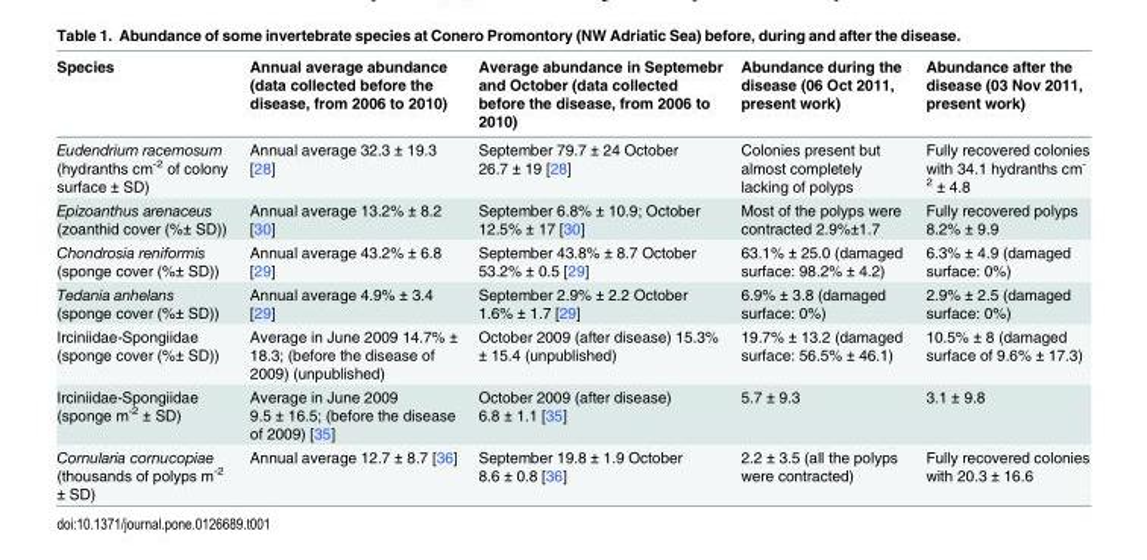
<table><thead><tr><td>Species</td><td>Annual average abundance (data collected before the disease, from 2006 to 2010)</td><td>Average abundance in Septemebr and October (data collected before the disease, from 2006 to 2010)</td><td>Abundance during the disease (06 Oct 2011, present work)</td><td>Abundance after the disease (03 Nov 2011, present work)</td></tr></thead><tbody><tr><td>Eudendrium racemosum (hydranths cm<sup>-2</sup> of colony surface ± SD)</td><td>Annual average 32.3 ± 19.3 [28]</td><td>September 79.7 ± 24 October 26.7 ± 19 [28]</td><td>Colonies present but almost completely lacking of polyps</td><td>Fully recovered colonies with 34.1 hydranths cm<sup>- 2</sup> ± 4.8</td></tr><tr><td>Epizoanthus arenaceus (zoanthid cover (%± SD))</td><td>Annual average 13.2% ± 8.2 [30]</td><td>September 6.8% ± 10.9; October 12.5% ± 17 [30]</td><td>Most of the polyps were contracted 2.9%±1.7</td><td>Fully recovered polyps 8.2% ± 9.9</td></tr><tr><td>Chondrosia reniformis (sponge cover (%± SD))</td><td>Annual average 43.2% ± 6.8 [29]</td><td>September 43.8% ± 8.7 October 53.2% ± 0.5 [29]</td><td>63.1% ± 25.0 (damaged surface: 98.2% ± 4.2)</td><td>6.3% ± 4.9 (damaged surface: 0%)</td></tr><tr><td>Tedania anhelans (sponge cover (%± SD))</td><td>Annual average 4.9% ± 3.4 [29]</td><td>September 2.9% ± 2.2 October 1.6% ± 1.7 [29]</td><td>6.9% ± 3.8 (damaged surface: 0%)</td><td>2.9% ± 2.5 (damaged surface: 0%)</td></tr><tr><td>Irciniidae-Spongiidae (sponge cover (%± SD))</td><td>Average in June 2009 14.7% ± 18.3; (before the disease of 2009) (unpublished)</td><td>October 2009 (after disease) 15.3% ± 15.4 (unpublished)</td><td>19.7% ± 13.2 (damaged surface: 56.5% ± 46.1)</td><td>10.5% ± 8 (damaged surface of 9.6% ± 17.3)</td></tr><tr><td>Irciniidae-Spongiidae (sponge m<sup>-2</sup> ± SD)</td><td>Average in June 2009 9.5 ± 16.5; (before the disease of 2009) [35]</td><td>October 2009 (after disease) 6.8 ± 1.1 [35]</td><td>5.7 ± 9.3</td><td>3.1 ± 9.8</td></tr><tr><td>Cornularia cornucopiae (thousands of polyps m<sup>-2</sup> ± SD)</td><td>Annual average 12.7 ± 8.7 [36]</td><td>September 19.8 ± 1.9 October 8.6 ± 0.8 [36]</td><td>2.2 ± 3.5 (all the polyps were contracted)</td><td>Fully recovered colonies with 20.3 ± 16.6</td></tr></tbody></table>